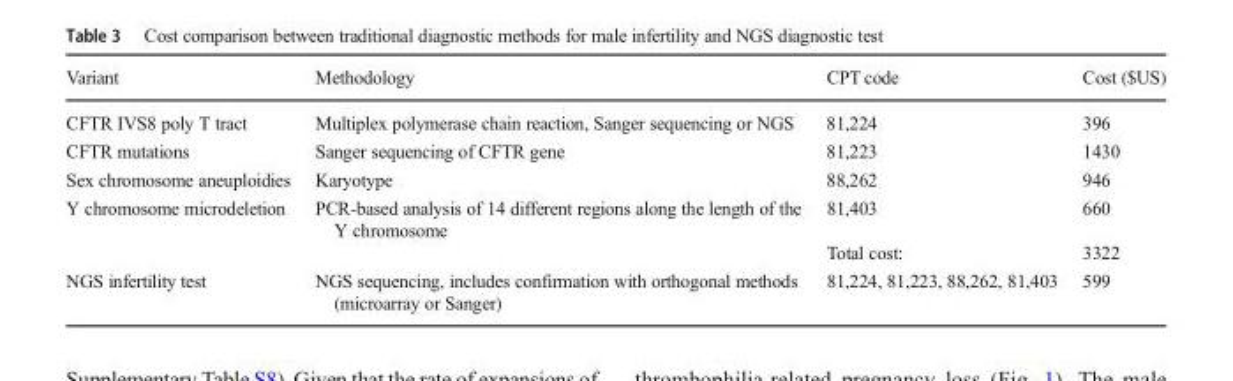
<table><thead><tr><td>Variant</td><td>Methodology</td><td>CPT code</td><td>Cost ($US)</td></tr></thead><tbody><tr><td>CFTR IVS8 poly T tract</td><td>Multiplex polymerase chain reaction, Sanger sequencing or NGS</td><td>81,224</td><td>396</td></tr><tr><td>CFTR mutations</td><td>Sanger sequencing of CFTR gene</td><td>81,223</td><td>1430</td></tr><tr><td>Sex chromosome aneuploidies</td><td>Karyotype</td><td>88,262</td><td>946</td></tr><tr><td rowspan="2">Y chromosome microdeletion</td><td>PCR-based analysis of 14 different regions along the length of the Y chromosome</td><td>81,403</td><td>660</td></tr><tr><td></td><td>Total cost:</td><td>3322</td></tr><tr><td>NGS infertility test</td><td>NGS sequencing, includes confirmation with orthogonal methods (microarray or Sanger)</td><td>81,224, 81,223, 88,262, 81,403</td><td>599</td></tr></tbody></table>